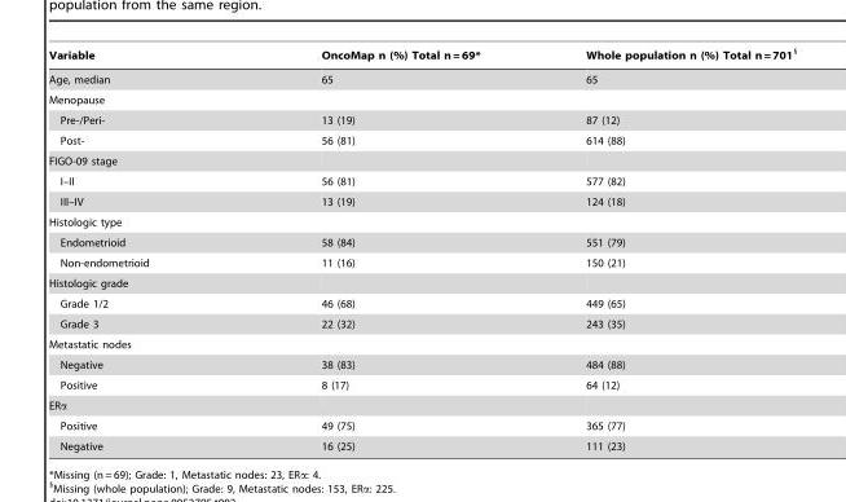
<table><thead><tr><td>Variable</td><td>OncoMap n (%) Total n = 69*</td><td>Whole population n (%) Total n = 701§</td></tr></thead><tbody><tr><td>Age, median</td><td>65</td><td>65</td></tr><tr><td colspan="3">Menopause</td></tr><tr><td>Pre-/Peri-</td><td>13 (19)</td><td>87 (12)</td></tr><tr><td>Post-</td><td>56 (81)</td><td>614 (88)</td></tr><tr><td colspan="3">FIGO-09 stage</td></tr><tr><td>I–II</td><td>56 (81)</td><td>577 (82)</td></tr><tr><td>III–IV</td><td>13 (19)</td><td>124 (18)</td></tr><tr><td colspan="3">Histologic type</td></tr><tr><td>Endometrioid</td><td>58 (84)</td><td>551 (79)</td></tr><tr><td>Non-endometrioid</td><td>11 (16)</td><td>150 (21)</td></tr><tr><td colspan="3">Histologic grade</td></tr><tr><td>Grade 1/2</td><td>46 (68)</td><td>449 (65)</td></tr><tr><td>Grade 3</td><td>22 (32)</td><td>243 (35)</td></tr><tr><td colspan="3">Metastatic nodes</td></tr><tr><td>Negative</td><td>38 (83)</td><td>484 (88)</td></tr><tr><td>Positive</td><td>8 (17)</td><td>64 (12)</td></tr><tr><td colspan="3">ERα</td></tr><tr><td>Positive</td><td>49 (75)</td><td>365 (77)</td></tr><tr><td>Negative</td><td>16 (25)</td><td>111 (23)</td></tr></tbody></table>